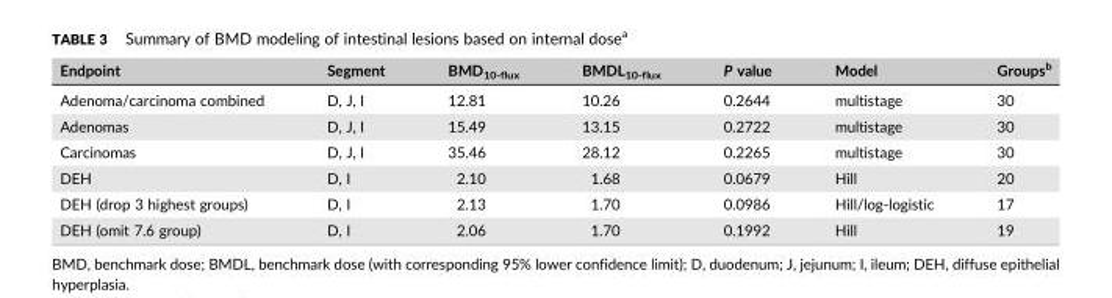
<table><thead><tr><td>Endpoint</td><td>Segment</td><td>BMD<sub>10‐flux</sub></td><td>BMDL<sub>10‐flux</sub></td><td>P value</td><td>Model</td><td>Groups<sup>b</sup></td></tr></thead><tbody><tr><td>Adenoma/carcinoma combined</td><td>D, J, I</td><td>12.81</td><td>10.26</td><td>0.2644</td><td>multistage</td><td>30</td></tr><tr><td>Adenomas</td><td>D, J, I</td><td>15.49</td><td>13.15</td><td>0.2722</td><td>multistage</td><td>30</td></tr><tr><td>Carcinomas</td><td>D, J, I</td><td>35.46</td><td>28.12</td><td>0.2265</td><td>multistage</td><td>30</td></tr><tr><td>DEH</td><td>D, I</td><td>2.10</td><td>1.68</td><td>0.0679</td><td>Hill</td><td>20</td></tr><tr><td>DEH (drop 3 highest groups)</td><td>D, I</td><td>2.13</td><td>1.70</td><td>0.0986</td><td>Hill/log‐logistic</td><td>17</td></tr><tr><td>DEH (omit 7.6 group)</td><td>D, I</td><td>2.06</td><td>1.70</td><td>0.1992</td><td>Hill</td><td>19</td></tr></tbody></table>